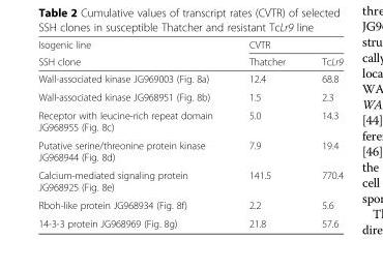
<table><thead><tr><td rowspan="2">Isogenic line SSH clone</td><td colspan="2">CVTR</td></tr><tr><td>Thatcher</td><td>TcLr9</td></tr></thead><tbody><tr><td>Wall-associated kinase JG969003 (Fig. 8a)</td><td>12.4</td><td>68.8</td></tr><tr><td>Wall-associated kinase JG968951 (Fig. 8b)</td><td>1.5</td><td>2.3</td></tr><tr><td>Receptor with leucine-rich repeat domain JG968955 (Fig. 8c)</td><td>5.0</td><td>14.3</td></tr><tr><td>Putative serine/threonine protein kinase JG968944 (Fig. 8d)</td><td>7.9</td><td>19.4</td></tr><tr><td>Calcium-mediated signaling protein JG968925 (Fig. 8e)</td><td>141.5</td><td>770.4</td></tr><tr><td>Rboh-like protein JG968934 (Fig. 8f)</td><td>2.2</td><td>5.6</td></tr><tr><td>14-3-3 protein JG968969 (Fig. 8g)</td><td>21.8</td><td>57.6</td></tr></tbody></table>